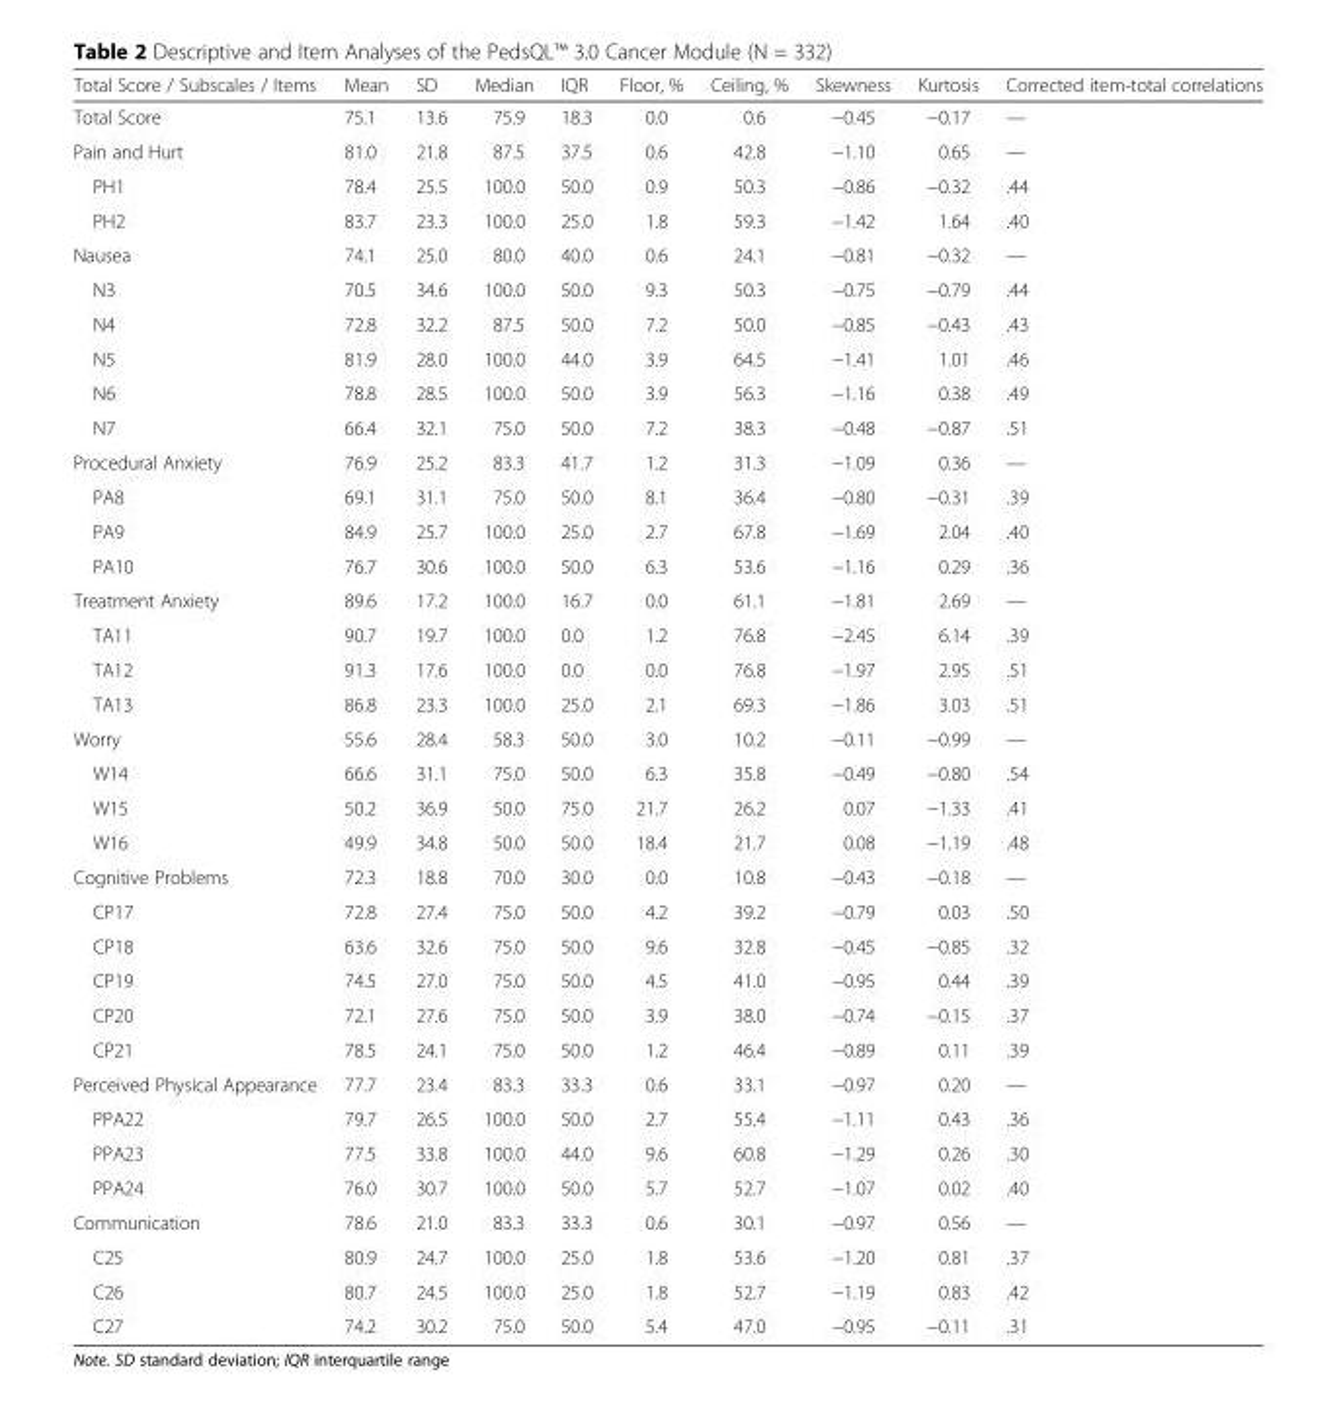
<table><thead><tr><td>Total Score / Subscales / Items</td><td>Mean</td><td>SD</td><td>Median</td><td>IQR</td><td>Floor, %</td><td>Ceiling, %</td><td>Skewness</td><td>Kurtosis</td><td>Corrected item-total correlations</td></tr></thead><tbody><tr><td>Total Score</td><td>75.1</td><td>13.6</td><td>75.9</td><td>18.3</td><td>0.0</td><td>0.6</td><td>−0.45</td><td>−0.17</td><td>—</td></tr><tr><td>Pain and Hurt</td><td>81.0</td><td>21.8</td><td>87.5</td><td>37.5</td><td>0.6</td><td>42.8</td><td>−1.10</td><td>0.65</td><td>—</td></tr><tr><td>PH1</td><td>78.4</td><td>25.5</td><td>100.0</td><td>50.0</td><td>0.9</td><td>50.3</td><td>−0.86</td><td>−0.32</td><td>.44</td></tr><tr><td>PH2</td><td>83.7</td><td>23.3</td><td>100.0</td><td>25.0</td><td>1.8</td><td>59.3</td><td>−1.42</td><td>1.64</td><td>.40</td></tr><tr><td>Nausea</td><td>74.1</td><td>25.0</td><td>80.0</td><td>40.0</td><td>0.6</td><td>24.1</td><td>−0.81</td><td>−0.32</td><td>—</td></tr><tr><td>N3</td><td>70.5</td><td>34.6</td><td>100.0</td><td>50.0</td><td>9.3</td><td>50.3</td><td>−0.75</td><td>−0.79</td><td>.44</td></tr><tr><td>N4</td><td>72.8</td><td>32.2</td><td>87.5</td><td>50.0</td><td>7.2</td><td>50.0</td><td>−0.85</td><td>−0.43</td><td>.43</td></tr><tr><td>N5</td><td>81.9</td><td>28.0</td><td>100.0</td><td>44.0</td><td>3.9</td><td>64.5</td><td>−1.41</td><td>1.01</td><td>.46</td></tr><tr><td>N6</td><td>78.8</td><td>28.5</td><td>100.0</td><td>50.0</td><td>3.9</td><td>56.3</td><td>−1.16</td><td>0.38</td><td>.49</td></tr><tr><td>N7</td><td>66.4</td><td>32.1</td><td>75.0</td><td>50.0</td><td>7.2</td><td>38.3</td><td>−0.48</td><td>−0.87</td><td>.51</td></tr><tr><td>Procedural Anxiety</td><td>76.9</td><td>25.2</td><td>83.3</td><td>41.7</td><td>1.2</td><td>31.3</td><td>−1.09</td><td>0.36</td><td>—</td></tr><tr><td>PA8</td><td>69.1</td><td>31.1</td><td>75.0</td><td>50.0</td><td>8.1</td><td>36.4</td><td>−0.80</td><td>−0.31</td><td>.39</td></tr><tr><td>PA9</td><td>84.9</td><td>25.7</td><td>100.0</td><td>25.0</td><td>2.7</td><td>67.8</td><td>−1.69</td><td>2.04</td><td>.40</td></tr><tr><td>PA10</td><td>76.7</td><td>30.6</td><td>100.0</td><td>50.0</td><td>6.3</td><td>53.6</td><td>−1.16</td><td>0.29</td><td>.36</td></tr><tr><td>Treatment Anxiety</td><td>89.6</td><td>17.2</td><td>100.0</td><td>16.7</td><td>0.0</td><td>61.1</td><td>−1.81</td><td>2.69</td><td>—</td></tr><tr><td>TA11</td><td>90.7</td><td>19.7</td><td>100.0</td><td>0.0</td><td>1.2</td><td>76.8</td><td>−2.45</td><td>6.14</td><td>.39</td></tr><tr><td>TA12</td><td>91.3</td><td>17.6</td><td>100.0</td><td>0.0</td><td>0.0</td><td>76.8</td><td>−1.97</td><td>2.95</td><td>.51</td></tr><tr><td>TA13</td><td>86.8</td><td>23.3</td><td>100.0</td><td>25.0</td><td>2.1</td><td>69.3</td><td>−1.86</td><td>3.03</td><td>.51</td></tr><tr><td>Worry</td><td>55.6</td><td>28.4</td><td>58.3</td><td>50.0</td><td>3.0</td><td>10.2</td><td>−0.11</td><td>−0.99</td><td>—</td></tr><tr><td>W14</td><td>66.6</td><td>31.1</td><td>75.0</td><td>50.0</td><td>6.3</td><td>35.8</td><td>−0.49</td><td>−0.80</td><td>.54</td></tr><tr><td>W15</td><td>50.2</td><td>36.9</td><td>50.0</td><td>75.0</td><td>21.7</td><td>26.2</td><td>0.07</td><td>−1.33</td><td>.41</td></tr><tr><td>W16</td><td>49.9</td><td>34.8</td><td>50.0</td><td>50.0</td><td>18.4</td><td>21.7</td><td>0.08</td><td>−1.19</td><td>.48</td></tr><tr><td>Cognitive Problems</td><td>72.3</td><td>18.8</td><td>70.0</td><td>30.0</td><td>0.0</td><td>10.8</td><td>−0.43</td><td>−0.18</td><td>—</td></tr><tr><td>CP17</td><td>72.8</td><td>27.4</td><td>75.0</td><td>50.0</td><td>4.2</td><td>39.2</td><td>−0.79</td><td>0.03</td><td>.50</td></tr><tr><td>CP18</td><td>63.6</td><td>32.6</td><td>75.0</td><td>50.0</td><td>9.6</td><td>32.8</td><td>−0.45</td><td>−0.85</td><td>.32</td></tr><tr><td>CP19</td><td>74.5</td><td>27.0</td><td>75.0</td><td>50.0</td><td>4.5</td><td>41.0</td><td>−0.95</td><td>0.44</td><td>.39</td></tr><tr><td>CP20</td><td>72.1</td><td>27.6</td><td>75.0</td><td>50.0</td><td>3.9</td><td>38.0</td><td>−0.74</td><td>−0.15</td><td>.37</td></tr><tr><td>CP21</td><td>78.5</td><td>24.1</td><td>75.0</td><td>50.0</td><td>1.2</td><td>46.4</td><td>−0.89</td><td>0.11</td><td>.39</td></tr><tr><td>Perceived Physical Appearance</td><td>77.7</td><td>23.4</td><td>83.3</td><td>33.3</td><td>0.6</td><td>33.1</td><td>−0.97</td><td>0.20</td><td>—</td></tr><tr><td>PPA22</td><td>79.7</td><td>26.5</td><td>100.0</td><td>50.0</td><td>2.7</td><td>55.4</td><td>−1.11</td><td>0.43</td><td>.36</td></tr><tr><td>PPA23</td><td>77.5</td><td>33.8</td><td>100.0</td><td>44.0</td><td>9.6</td><td>60.8</td><td>−1.29</td><td>0.26</td><td>.30</td></tr><tr><td>PPA24</td><td>76.0</td><td>30.7</td><td>100.0</td><td>50.0</td><td>5.7</td><td>52.7</td><td>−1.07</td><td>0.02</td><td>.40</td></tr><tr><td>Communication</td><td>78.6</td><td>21.0</td><td>83.3</td><td>33.3</td><td>0.6</td><td>30.1</td><td>−0.97</td><td>0.56</td><td>—</td></tr><tr><td>C25</td><td>80.9</td><td>24.7</td><td>100.0</td><td>25.0</td><td>1.8</td><td>53.6</td><td>−1.20</td><td>0.81</td><td>.37</td></tr><tr><td>C26</td><td>80.7</td><td>24.5</td><td>100.0</td><td>25.0</td><td>1.8</td><td>52.7</td><td>−1.19</td><td>0.83</td><td>.42</td></tr><tr><td>C27</td><td>74.2</td><td>30.2</td><td>75.0</td><td>50.0</td><td>5.4</td><td>47.0</td><td>−0.95</td><td>−0.11</td><td>.31</td></tr></tbody></table>